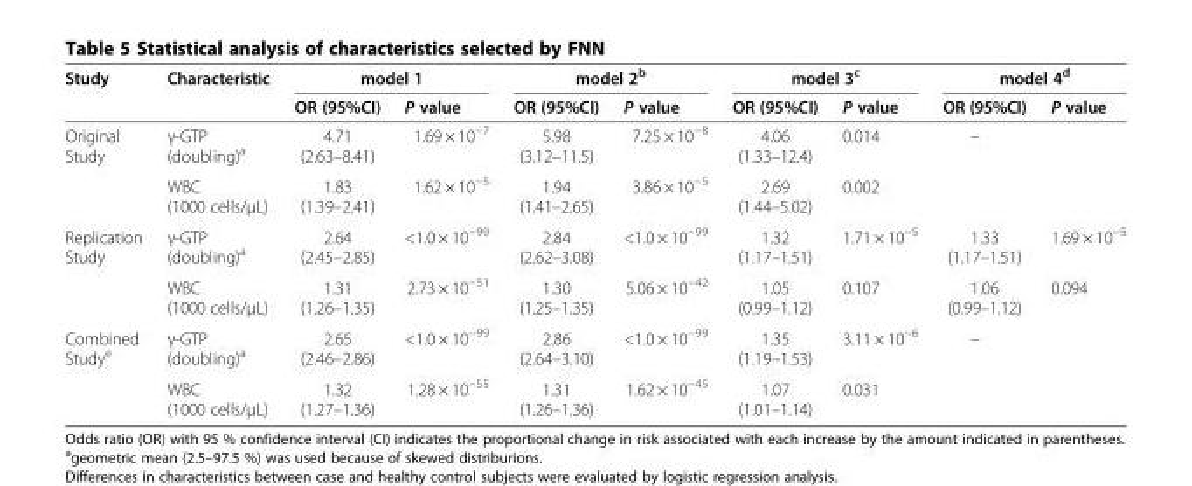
<table><thead><tr><td rowspan="2">Study</td><td rowspan="2">Characteristic</td><td colspan="2">model 1</td><td colspan="2">model 2<sup>b</sup></td><td colspan="2">model 3<sup>c</sup></td><td colspan="2">model 4<sup>d</sup></td></tr><tr><td>OR (95%CI)</td><td>P value</td><td>OR (95%CI)</td><td>P value</td><td>OR (95%CI)</td><td>P value</td><td>OR (95%CI)</td><td>P value</td></tr></thead><tbody><tr><td rowspan="2">Original Study</td><td>γ-GTP (doubling)<sup>a</sup></td><td>4.71 (2.63–8.41)</td><td>1.69 × 10<sup>−7</sup></td><td>5.98 (3.12–11.5)</td><td>7.25 × 10<sup>−8</sup></td><td>4.06 (1.33–12.4)</td><td>0.014</td><td>–</td><td></td></tr><tr><td>WBC (1000 cells/μL)</td><td>1.83 (1.39–2.41)</td><td>1.62 × 10<sup>−5</sup></td><td>1.94 (1.41–2.65)</td><td>3.86 × 10<sup>−5</sup></td><td>2.69 (1.44–5.02)</td><td>0.002</td><td></td><td></td></tr><tr><td rowspan="2">Replication Study</td><td>γ-GTP (doubling)<sup>a</sup></td><td>2.64 (2.45–2.85)</td><td>&lt;1.0 × 10<sup>−99</sup></td><td>2.84 (2.62–3.08)</td><td>&lt;1.0 × 10<sup>−99</sup></td><td>1.32 (1.17–1.51)</td><td>1.71 × 10<sup>−5</sup></td><td>1.33 (1.17–1.51)</td><td>1.69 × 10<sup>−5</sup></td></tr><tr><td>WBC (1000 cells/μL)</td><td>1.31 (1.26–1.35)</td><td>2.73 × 10<sup>−51</sup></td><td>1.30 (1.25–1.35)</td><td>5.06 × 10<sup>−42</sup></td><td>1.05 (0.99–1.12)</td><td>0.107</td><td>1.06 (0.99–1.12)</td><td>0.094</td></tr><tr><td rowspan="2">Combined Study<sup>e</sup></td><td>γ-GTP (doubling)<sup>a</sup></td><td>2.65 (2.46–2.86)</td><td>&lt;1.0 × 10<sup>−99</sup></td><td>2.86 (2.64–3.10)</td><td>&lt;1.0 × 10<sup>−99</sup></td><td>1.35 (1.19–1.53)</td><td>3.11 × 10<sup>−6</sup></td><td>–</td><td></td></tr><tr><td>WBC (1000 cells/μL)</td><td>1.32 (1.27–1.36)</td><td>1.28 × 10<sup>−55</sup></td><td>1.31 (1.26–1.36)</td><td>1.62 × 10<sup>−45</sup></td><td>1.07 (1.01–1.14)</td><td>0.031</td><td></td><td></td></tr></tbody></table>